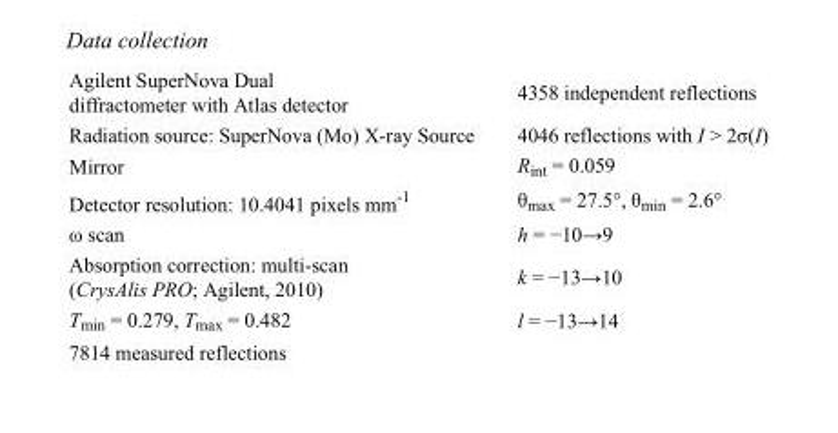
<table><tbody><tr><td>Agilent SuperNova Dual diffractometer with Atlas detector</td><td>4358 independent reflections</td></tr><tr><td>Radiation source: SuperNova (Mo) X-ray Source</td><td>4046 reflections with I &gt; 2σ(I)</td></tr><tr><td>Mirror</td><td>R<sub>int</sub> = 0.059</td></tr><tr><td>Detector resolution: 10.4041 pixels mm<sup>-1</sup></td><td>θ<sub>max</sub> = 27.5°, θ<sub>min</sub> = 2.6°</td></tr><tr><td>ω scan</td><td>h = −10→9</td></tr><tr><td>Absorption correction: multi-scan (CrysAlis PRO; Agilent, 2010)</td><td>k = −13→10</td></tr><tr><td>T<sub>min</sub> = 0.279, T<sub>max</sub> = 0.482</td><td>l = −13→14</td></tr><tr><td>7814 measured reflections</td><td></td></tr></tbody></table>